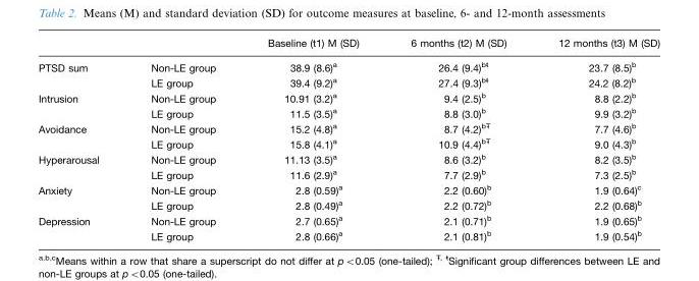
<table><thead><tr><td></td><td></td><td>Baseline (t1) M (SD)</td><td>6 months (t2) M (SD)</td><td>12 months (t3) M (SD)</td></tr></thead><tbody><tr><td>PTSD sum</td><td>Non-LE group LE group</td><td>38.9 (8.6)<sup>a</sup> 39.4 (9.2)<sup>a</sup></td><td>26.4 (9.4)bt- 27.4 (9.3)bt-</td><td>23.7 (8.5)<sup>b</sup> 24.2 (8.2)<sup>b</sup></td></tr><tr><td rowspan="2">Intrusion</td><td>Non-LE group</td><td>10.91 (3.2)<sup>a</sup></td><td>9.4 (2.5)<sup>b</sup></td><td>8.8 (2.2)<sup>b</sup></td></tr><tr><td>LE group</td><td>11.5 (3.5)<sup>a</sup></td><td>8.8 (3.0)<sup>b</sup></td><td>9.9 (3.2)<sup>b</sup></td></tr><tr><td rowspan="2">Avoidance</td><td>Non-LE group</td><td>15.2 (4.8)<sup>a</sup></td><td>8.7 (4.2)bT-</td><td>7.7 (4.6)<sup>b</sup></td></tr><tr><td>LE group</td><td>15.8 (4.1)<sup>a</sup></td><td>10.9 (4.4)bT-</td><td>9.0 (4.3)<sup>b</sup></td></tr><tr><td rowspan="2">Hyperarousal</td><td>Non-LE group</td><td>11.13 (3.5)<sup>a</sup></td><td>8.6 (3.2)<sup>b</sup></td><td>8.2 (3.5)<sup>b</sup></td></tr><tr><td>LE group</td><td>11.6 (2.9)<sup>a</sup></td><td>7.7 (2.9)<sup>b</sup></td><td>7.3 (2.5)<sup>b</sup></td></tr><tr><td rowspan="2">Anxiety</td><td>Non-LE group</td><td>2.8 (0.59)<sup>a</sup></td><td>2.2 (0.60)<sup>b</sup></td><td>1.9 (0.64)<sup>c</sup></td></tr><tr><td>LE group</td><td>2.8 (0.49)<sup>a</sup></td><td>2.2 (0.72)<sup>b</sup></td><td>2.2 (0.68)<sup>b</sup></td></tr><tr><td rowspan="2">Depression</td><td>Non-LE group</td><td>2.7 (0.65)<sup>a</sup></td><td>2.1 (0.71)<sup>b</sup></td><td>1.9 (0.65)<sup>b</sup></td></tr><tr><td>LE group</td><td>2.8 (0.66)<sup>a</sup></td><td>2.1 (0.81)<sup>b</sup></td><td>1.9 (0.54)<sup>b</sup></td></tr></tbody></table>